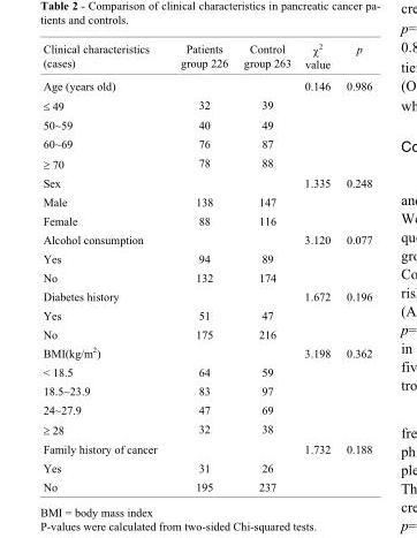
<table><thead><tr><td>Clinical characteristics (cases)</td><td>Patients group 226</td><td>Control group 263</td><td>χ<sup>2</sup> value</td><td>p</td></tr></thead><tbody><tr><td>Age (years old)</td><td></td><td></td><td>0.146</td><td>0.986</td></tr><tr><td>≤ 49</td><td>32</td><td>39</td><td></td><td></td></tr><tr><td>50~59</td><td>40</td><td>49</td><td></td><td></td></tr><tr><td>60~69</td><td>76</td><td>87</td><td></td><td></td></tr><tr><td>≥ 70</td><td>78</td><td>88</td><td></td><td></td></tr><tr><td>Sex</td><td></td><td></td><td>1.335</td><td>0.248</td></tr><tr><td>Male</td><td>138</td><td>147</td><td></td><td></td></tr><tr><td>Female</td><td>88</td><td>116</td><td></td><td></td></tr><tr><td>Alcohol consumption</td><td></td><td></td><td>3.120</td><td>0.077</td></tr><tr><td>Yes</td><td>94</td><td>89</td><td></td><td></td></tr><tr><td>No</td><td>132</td><td>174</td><td></td><td></td></tr><tr><td>Diabetes history</td><td></td><td></td><td>1.672</td><td>0.196</td></tr><tr><td>Yes</td><td>51</td><td>47</td><td></td><td></td></tr><tr><td>No</td><td>175</td><td>216</td><td></td><td></td></tr><tr><td>BMI(kg/m<sup>2</sup>)</td><td></td><td></td><td>3.198</td><td>0.362</td></tr><tr><td>&lt; 18.5</td><td>64</td><td>59</td><td></td><td></td></tr><tr><td>18.5~23.9</td><td>83</td><td>97</td><td></td><td></td></tr><tr><td>24~27.9</td><td>47</td><td>69</td><td></td><td></td></tr><tr><td>≥ 28</td><td>32</td><td>38</td><td></td><td></td></tr><tr><td>Family history of cancer</td><td></td><td></td><td>1.732</td><td>0.188</td></tr><tr><td>Yes</td><td>31</td><td>26</td><td></td><td></td></tr><tr><td>No</td><td>195</td><td>237</td><td></td><td></td></tr></tbody></table>